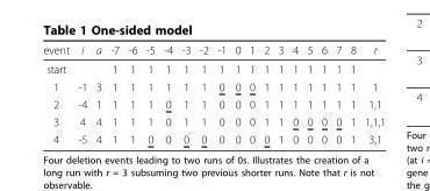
<table><thead><tr><td>event</td><td>i</td><td>a</td><td>-7</td><td>-6</td><td>-5</td><td>-4</td><td>-3</td><td>-2</td><td>-1</td><td>0</td><td>1</td><td>2</td><td>3</td><td>4</td><td>5</td><td>6</td><td>7</td><td>8</td><td>r</td></tr></thead><tbody><tr><td>start</td><td></td><td></td><td>1</td><td>1</td><td>1</td><td>1</td><td>1</td><td>1</td><td>1</td><td>1</td><td>1</td><td>1</td><td>1</td><td>1</td><td>1</td><td>1</td><td>1</td><td>1</td><td></td></tr><tr><td>1</td><td>-1</td><td>3</td><td>1</td><td>1</td><td>1</td><td>1</td><td>1</td><td>1</td><td>0</td><td>0</td><td>0</td><td>1</td><td>1</td><td>1</td><td>1</td><td>1</td><td>1</td><td>1</td><td>1</td></tr><tr><td>2</td><td>-4</td><td>1</td><td>1</td><td>1</td><td>1</td><td>0</td><td>1</td><td>1</td><td>0</td><td>0</td><td>0</td><td>1</td><td>1</td><td>1</td><td>1</td><td>1</td><td>1</td><td>1</td><td>1,1</td></tr><tr><td>3</td><td>4</td><td>4</td><td>1</td><td>1</td><td>1</td><td>0</td><td>1</td><td>1</td><td>0</td><td>0</td><td>0</td><td>1</td><td>1</td><td>0</td><td>0</td><td>0</td><td>0</td><td>1</td><td>1,1,1</td></tr><tr><td>4</td><td>-5</td><td>4</td><td>1</td><td>1</td><td>0</td><td>0</td><td>0</td><td>0</td><td>0</td><td>0</td><td>0</td><td>0</td><td>1</td><td>0</td><td>0</td><td>0</td><td>0</td><td>1</td><td>3,1</td></tr></tbody></table>